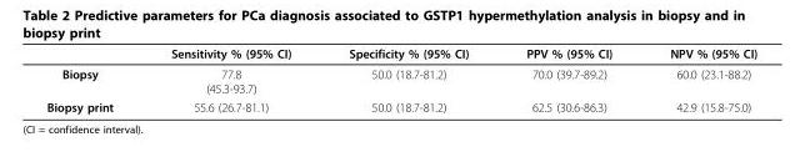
<table><thead><tr><td></td><td>Sensitivity % (95% CI)</td><td>Specificity % (95% CI)</td><td>PPV % (95% CI)</td><td>NPV % (95% CI)</td></tr></thead><tbody><tr><td>Biopsy</td><td>77.8 (45.3-93.7)</td><td>50.0 (18.7-81.2)</td><td>70.0 (39.7-89.2)</td><td>60.0 (23.1-88.2)</td></tr><tr><td>Biopsy print</td><td>55.6 (26.7-81.1)</td><td>50.0 (18.7-81.2)</td><td>62.5 (30.6-86.3)</td><td>42.9 (15.8-75.0)</td></tr></tbody></table>